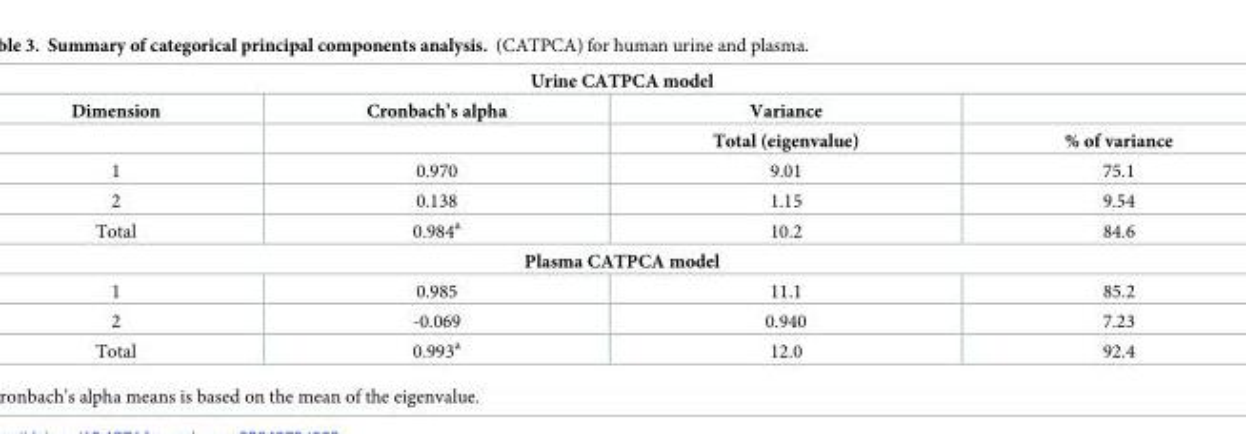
<table><tbody><tr><td colspan="4">Urine CATPCA model</td></tr><tr><td rowspan="2">Dimension</td><td>Cronbach’s alpha</td><td>Variance</td><td></td></tr><tr><td></td><td>Total (eigenvalue)</td><td>% of variance</td></tr><tr><td>1</td><td>0.970</td><td>9.01</td><td>75.1</td></tr><tr><td>2</td><td>0.138</td><td>1.15</td><td>9.54</td></tr><tr><td>Total</td><td>0.984<sup>a</sup></td><td>10.2</td><td>84.6</td></tr><tr><td colspan="4">Plasma CATPCA model</td></tr><tr><td>1</td><td>0.985</td><td>11.1</td><td>85.2</td></tr><tr><td>2</td><td>-0.069</td><td>0.940</td><td>7.23</td></tr><tr><td>Total</td><td>0.993<sup>a</sup></td><td>12.0</td><td>92.4</td></tr></tbody></table>